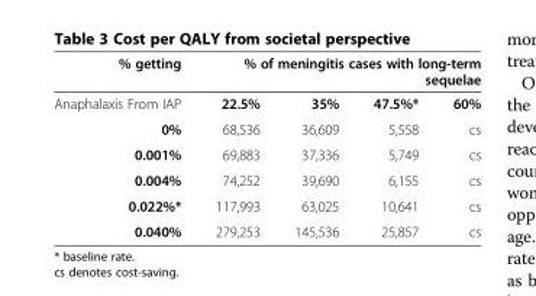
<table><thead><tr><td rowspan="2">% getting Anaphalaxis From IAP</td><td colspan="4">% of meningitis cases with long-term sequelae</td></tr><tr><td>22.5%</td><td>35%</td><td>47.5%*</td><td>60%</td></tr></thead><tbody><tr><td>0%</td><td>68,536</td><td>36,609</td><td>5,558</td><td>cs</td></tr><tr><td>0.001%</td><td>69,883</td><td>37,336</td><td>5,749</td><td>cs</td></tr><tr><td>0.004%</td><td>74,252</td><td>39,690</td><td>6,155</td><td>cs</td></tr><tr><td>0.022%*</td><td>117,993</td><td>63,025</td><td>10,641</td><td>cs</td></tr><tr><td>0.040%</td><td>279,253</td><td>145,536</td><td>25,857</td><td>cs</td></tr></tbody></table>